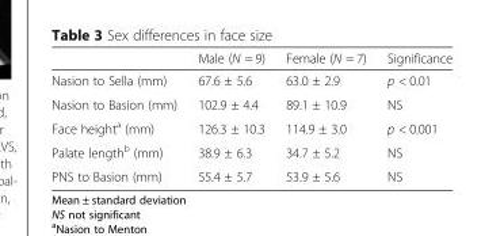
<table><thead><tr><td></td><td>Male (N = 9)</td><td>Female (N = 7)</td><td>Significance</td></tr></thead><tbody><tr><td>Nasion to Sella (mm)</td><td>67.6 ± 5.6</td><td>63.0 ± 2.9</td><td>p &lt; 0.01</td></tr><tr><td>Nasion to Basion (mm)</td><td>102.9 ± 4.4</td><td>89.1 ± 10.9</td><td>NS</td></tr><tr><td>Face height<sup>a</sup> (mm)</td><td>126.3 ± 10.3</td><td>114.9 ± 3.0</td><td>p &lt; 0.001</td></tr><tr><td>Palate length<sup>b</sup> (mm)</td><td>38.9 ± 6.3</td><td>34.7 ± 5.2</td><td>NS</td></tr><tr><td>PNS to Basion (mm)</td><td>55.4 ± 5.7</td><td>53.9 ± 5.6</td><td>NS</td></tr></tbody></table>